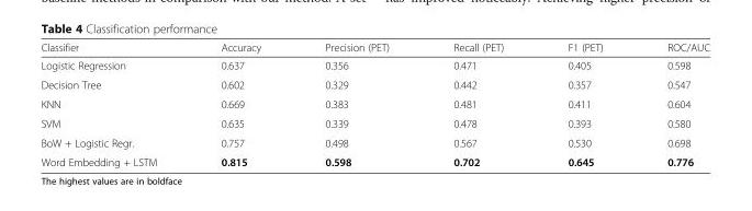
<table><thead><tr><td>Classifier</td><td>Accuracy</td><td>Precision (PET)</td><td>Recall (PET)</td><td>F1 (PET)</td><td>ROC/AUC</td></tr></thead><tbody><tr><td>Logistic Regression</td><td>0.637</td><td>0.356</td><td>0.471</td><td>0.405</td><td>0.598</td></tr><tr><td>Decision Tree</td><td>0.602</td><td>0.329</td><td>0.442</td><td>0.357</td><td>0.547</td></tr><tr><td>KNN</td><td>0.669</td><td>0.383</td><td>0.481</td><td>0.411</td><td>0.604</td></tr><tr><td>SVM</td><td>0.635</td><td>0.339</td><td>0.478</td><td>0.393</td><td>0.580</td></tr><tr><td>BoW + Logistic Regr.</td><td>0.757</td><td>0.498</td><td>0.567</td><td>0.530</td><td>0.698</td></tr><tr><td>Word Embedding + LSTM</td><td>0.815</td><td>0.598</td><td>0.702</td><td>0.645</td><td>0.776</td></tr></tbody></table>